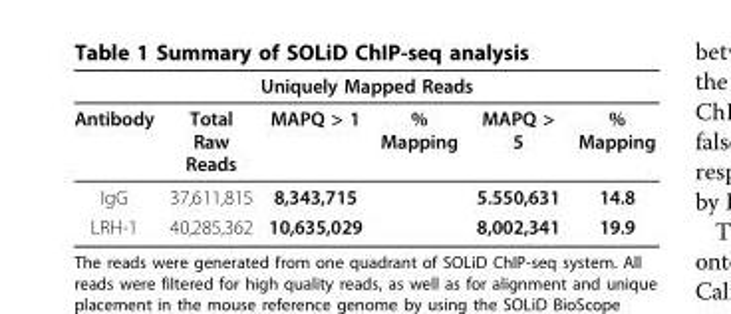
<table><thead><tr><td colspan="6">Uniquely Mapped Reads</td></tr><tr><td>Antibody</td><td>Total Raw Reads</td><td>MAPQ &gt; 1</td><td>% Mapping</td><td>MAPQ &gt; 5</td><td>% Mapping</td></tr></thead><tbody><tr><td>IgG</td><td>37,611,815</td><td>8,343,715</td><td></td><td>5.550,631</td><td>14.8</td></tr><tr><td>LRH-1</td><td>40,285,362</td><td>10,635,029</td><td></td><td>8,002,341</td><td>19.9</td></tr></tbody></table>